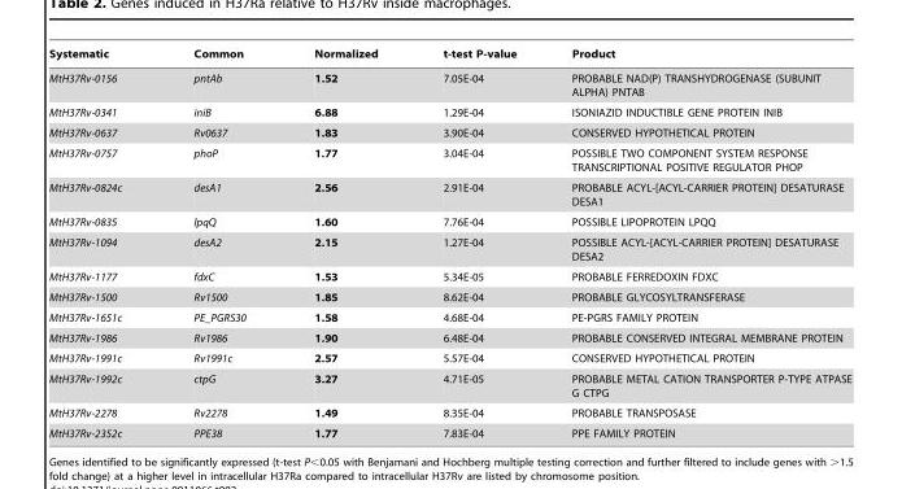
<table><thead><tr><td>Systematic</td><td>Common</td><td>Normalized</td><td>t-test P-value</td><td>Product</td></tr></thead><tbody><tr><td>MtH37Rv-0156</td><td>pntAb</td><td>1.52</td><td>7.05E-04</td><td>PROBABLE NAD(P) TRANSHYDROGENASE (SUBUNIT ALPHA) PNTAB</td></tr><tr><td>MtH37Rv-0341</td><td>iniB</td><td>6.88</td><td>1.29E-04</td><td>ISONIAZID INDUCTIBLE GENE PROTEIN INIB</td></tr><tr><td>MtH37Rv-0637</td><td>Rv0637</td><td>1.83</td><td>3.90E-04</td><td>CONSERVED HYPOTHETICAL PROTEIN</td></tr><tr><td>MtH37Rv-0757</td><td>phoP</td><td>1.77</td><td>3.04E-04</td><td>POSSIBLE TWO COMPONENT SYSTEM RESPONSE TRANSCRIPTIONAL POSITIVE REGULATOR PHOP</td></tr><tr><td>MtH37Rv-0824c</td><td>desA1</td><td>2.56</td><td>2.91E-04</td><td>PROBABLE ACYL-[ACYL-CARRIER PROTEIN] DESATURASE DESA1</td></tr><tr><td>MtH37Rv-0835</td><td>lpqQ</td><td>1.60</td><td>7.76E-04</td><td>POSSIBLE LIPOPROTEIN LPQQ</td></tr><tr><td>MtH37Rv-1094</td><td>desA2</td><td>2.15</td><td>1.27E-04</td><td>POSSIBLE ACYL-[ACYL-CARRIER PROTEIN] DESATURASE DESA2</td></tr><tr><td>MtH37Rv-1177</td><td>fdxC</td><td>1.53</td><td>5.34E-05</td><td>PROBABLE FERREDOXIN FDXC</td></tr><tr><td>MtH37Rv-1500</td><td>Rv1500</td><td>1.85</td><td>8.62E-04</td><td>PROBABLE GLYCOSYLTRANSFERASE</td></tr><tr><td>MtH37Rv-1651c</td><td>PE_PGRS30</td><td>1.58</td><td>4.68E-04</td><td>PE-PGRS FAMILY PROTEIN</td></tr><tr><td>MtH37Rv-1986</td><td>Rv1986</td><td>1.90</td><td>6.48E-04</td><td>PROBABLE CONSERVED INTEGRAL MEMBRANE PROTEIN</td></tr><tr><td>MtH37Rv-1991c</td><td>Rv1991c</td><td>2.57</td><td>5.57E-04</td><td>CONSERVED HYPOTHETICAL PROTEIN</td></tr><tr><td>MtH37Rv-1992c</td><td>ctpG</td><td>3.27</td><td>4.71E-05</td><td>PROBABLE METAL CATION TRANSPORTER P-TYPE ATPASE G CTPG</td></tr><tr><td>MtH37Rv-2278</td><td>Rv2278</td><td>1.49</td><td>8.35E-04</td><td>PROBABLE TRANSPOSASE</td></tr><tr><td>MtH37Rv-2352c</td><td>PPE38</td><td>1.77</td><td>7.83E-04</td><td>PPE FAMILY PROTEIN</td></tr></tbody></table>